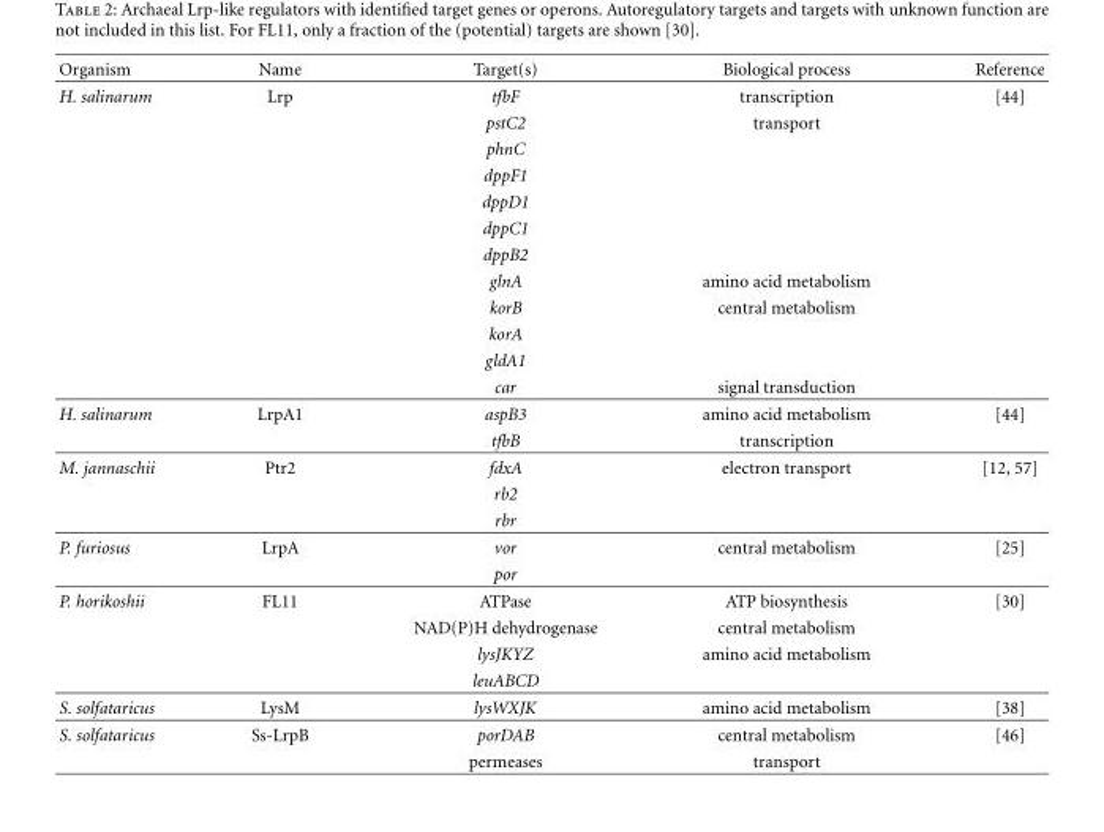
<table><thead><tr><td>Organism</td><td>Name</td><td>Target(s)</td><td>Biological process</td><td>Reference</td></tr></thead><tbody><tr><td rowspan="12">H. salinarum</td><td>Lrp</td><td>tfbF</td><td>transcription</td><td>[44]</td></tr><tr><td></td><td>pstC2</td><td>transport</td><td></td></tr><tr><td></td><td>phnC</td><td></td><td></td></tr><tr><td></td><td>dppF1</td><td></td><td></td></tr><tr><td></td><td>dppD1</td><td></td><td></td></tr><tr><td></td><td>dppC1</td><td></td><td></td></tr><tr><td></td><td>dppB2</td><td></td><td></td></tr><tr><td></td><td>glnA</td><td>amino acid metabolism</td><td></td></tr><tr><td></td><td>korB</td><td>central metabolism</td><td></td></tr><tr><td></td><td>korA</td><td></td><td></td></tr><tr><td></td><td>gldA1</td><td></td><td></td></tr><tr><td></td><td>car</td><td>signal transduction</td><td></td></tr><tr><td rowspan="2">H. salinarum</td><td>LrpA1</td><td>aspB3</td><td>amino acid metabolism</td><td>[44]</td></tr><tr><td></td><td>tfbB</td><td>transcription</td><td></td></tr><tr><td rowspan="3">M. jannaschii</td><td>Ptr2</td><td>fdxA</td><td>electron transport</td><td>[12, 57]</td></tr><tr><td></td><td>rb2</td><td></td><td></td></tr><tr><td></td><td>rbr</td><td></td><td></td></tr><tr><td rowspan="2">P. furiosus</td><td>LrpA</td><td>vor</td><td>central metabolism</td><td>[25]</td></tr><tr><td></td><td>por</td><td></td><td></td></tr><tr><td rowspan="4">P. horikoshii</td><td>FL11</td><td>ATPase</td><td>ATP biosynthesis</td><td>[30]</td></tr><tr><td></td><td>NAD(P)H dehydrogenase</td><td>central metabolism</td><td></td></tr><tr><td></td><td>lysJKYZ</td><td>amino acid metabolism</td><td></td></tr><tr><td></td><td>leuABCD</td><td></td><td></td></tr><tr><td>S. solfataricus</td><td>LysM</td><td>lysWXJK</td><td>amino acid metabolism</td><td>[38]</td></tr><tr><td rowspan="2">S. solfataricus</td><td>Ss-LrpB</td><td>porDAB</td><td>central metabolism</td><td>[46]</td></tr><tr><td></td><td>permeases</td><td>transport</td><td></td></tr></tbody></table>